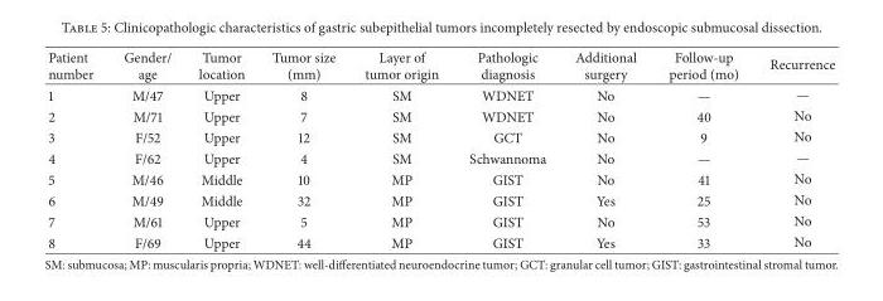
<table><thead><tr><td>Patient number</td><td>Gender/ age</td><td>Tumor location</td><td>Tumor size (mm)</td><td>Layer of tumor origin</td><td>Pathologic diagnosis</td><td>Additional surgery</td><td>Follow-up period (mo)</td><td>Recurrence</td></tr></thead><tbody><tr><td>1</td><td>M/47</td><td>Upper</td><td>8</td><td>SM</td><td>WDNET</td><td>No</td><td>—</td><td>—</td></tr><tr><td>2</td><td>M/71</td><td>Upper</td><td>7</td><td>SM</td><td>WDNET</td><td>No</td><td>40</td><td>No</td></tr><tr><td>3</td><td>F/52</td><td>Upper</td><td>12</td><td>SM</td><td>GCT</td><td>No</td><td>9</td><td>No</td></tr><tr><td>4</td><td>F/62</td><td>Upper</td><td>4</td><td>SM</td><td>Schwannoma</td><td>No</td><td>—</td><td>—</td></tr><tr><td>5</td><td>M/46</td><td>Middle</td><td>10</td><td>MP</td><td>GIST</td><td>No</td><td>41</td><td>No</td></tr><tr><td>6</td><td>M/49</td><td>Middle</td><td>32</td><td>MP</td><td>GIST</td><td>Yes</td><td>25</td><td>No</td></tr><tr><td>7</td><td>M/61</td><td>Upper</td><td>5</td><td>MP</td><td>GIST</td><td>No</td><td>53</td><td>No</td></tr><tr><td>8</td><td>F/69</td><td>Upper</td><td>44</td><td>MP</td><td>GIST</td><td>Yes</td><td>33</td><td>No</td></tr></tbody></table>